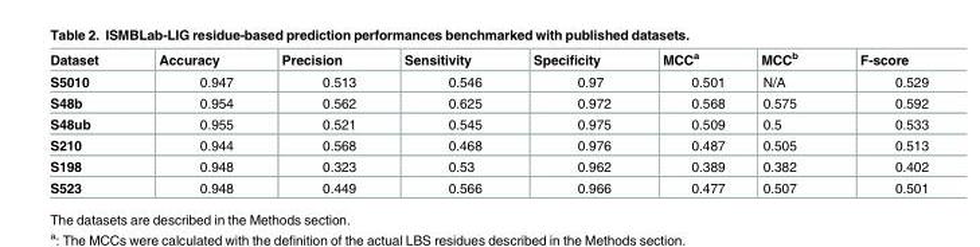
<table><thead><tr><td>Dataset</td><td>Accuracy</td><td>Precision</td><td>Sensitivity</td><td>Specificity</td><td>MCC<sup>a</sup></td><td>MCC<sup>b</sup></td><td>F-score</td></tr></thead><tbody><tr><td>S5010</td><td>0.947</td><td>0.513</td><td>0.546</td><td>0.97</td><td>0.501</td><td>N/A</td><td>0.529</td></tr><tr><td>S48b</td><td>0.954</td><td>0.562</td><td>0.625</td><td>0.972</td><td>0.568</td><td>0.575</td><td>0.592</td></tr><tr><td>S48ub</td><td>0.955</td><td>0.521</td><td>0.545</td><td>0.975</td><td>0.509</td><td>0.5</td><td>0.533</td></tr><tr><td>S210</td><td>0.944</td><td>0.568</td><td>0.468</td><td>0.976</td><td>0.487</td><td>0.505</td><td>0.513</td></tr><tr><td>S198</td><td>0.948</td><td>0.323</td><td>0.53</td><td>0.962</td><td>0.389</td><td>0.382</td><td>0.402</td></tr><tr><td>S523</td><td>0.948</td><td>0.449</td><td>0.566</td><td>0.966</td><td>0.477</td><td>0.507</td><td>0.501</td></tr></tbody></table>